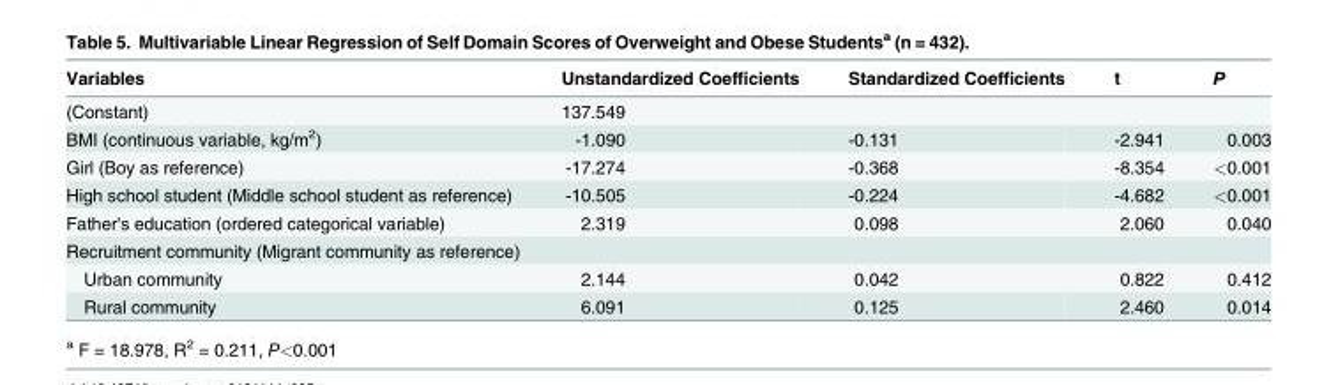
<table><thead><tr><td>Variables</td><td>Unstandardized Coefficients</td><td>Standardized Coefficients</td><td>t</td><td>P</td></tr></thead><tbody><tr><td>(Constant)</td><td>137.549</td><td></td><td></td><td></td></tr><tr><td>BMI (continuous variable, kg/m<sup>2</sup>)</td><td>-1.090</td><td>-0.131</td><td>-2.941</td><td>0.003</td></tr><tr><td>Girl (Boy as reference)</td><td>-17.274</td><td>-0.368</td><td>-8.354</td><td>&lt;0.001</td></tr><tr><td>High school student (Middle school student as reference)</td><td>-10.505</td><td>-0.224</td><td>-4.682</td><td>&lt;0.001</td></tr><tr><td>Father&#x27;s education (ordered categorical variable)</td><td>2.319</td><td>0.098</td><td>2.060</td><td>0.040</td></tr><tr><td colspan="5">Recruitment community (Migrant community as reference)</td></tr><tr><td>Urban community</td><td>2.144</td><td>0.042</td><td>0.822</td><td>0.412</td></tr><tr><td>Rural community</td><td>6.091</td><td>0.125</td><td>2.460</td><td>0.014</td></tr></tbody></table>